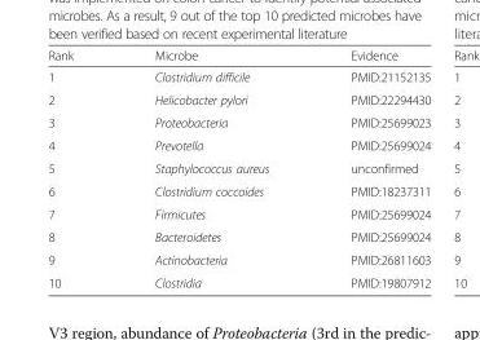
<table><thead><tr><td>Rank</td><td>Microbe</td><td>Evidence</td></tr></thead><tbody><tr><td>1</td><td>Clostridium difficile</td><td>PMID:21152135</td></tr><tr><td>2</td><td>Helicobacter pylori</td><td>PMID:22294430</td></tr><tr><td>3</td><td>Proteobacteria</td><td>PMID:25699023</td></tr><tr><td>4</td><td>Prevotella</td><td>PMID:25699024</td></tr><tr><td>5</td><td>Staphylococcus aureus</td><td>unconfirmed</td></tr><tr><td>6</td><td>Clostridium coccoides</td><td>PMID:18237311</td></tr><tr><td>7</td><td>Firmicutes</td><td>PMID:25699024</td></tr><tr><td>8</td><td>Bacteroidetes</td><td>PMID:25699024</td></tr><tr><td>9</td><td>Actinobacteria</td><td>PMID:26811603</td></tr><tr><td>10</td><td>Clostridia</td><td>PMID:19807912</td></tr></tbody></table>